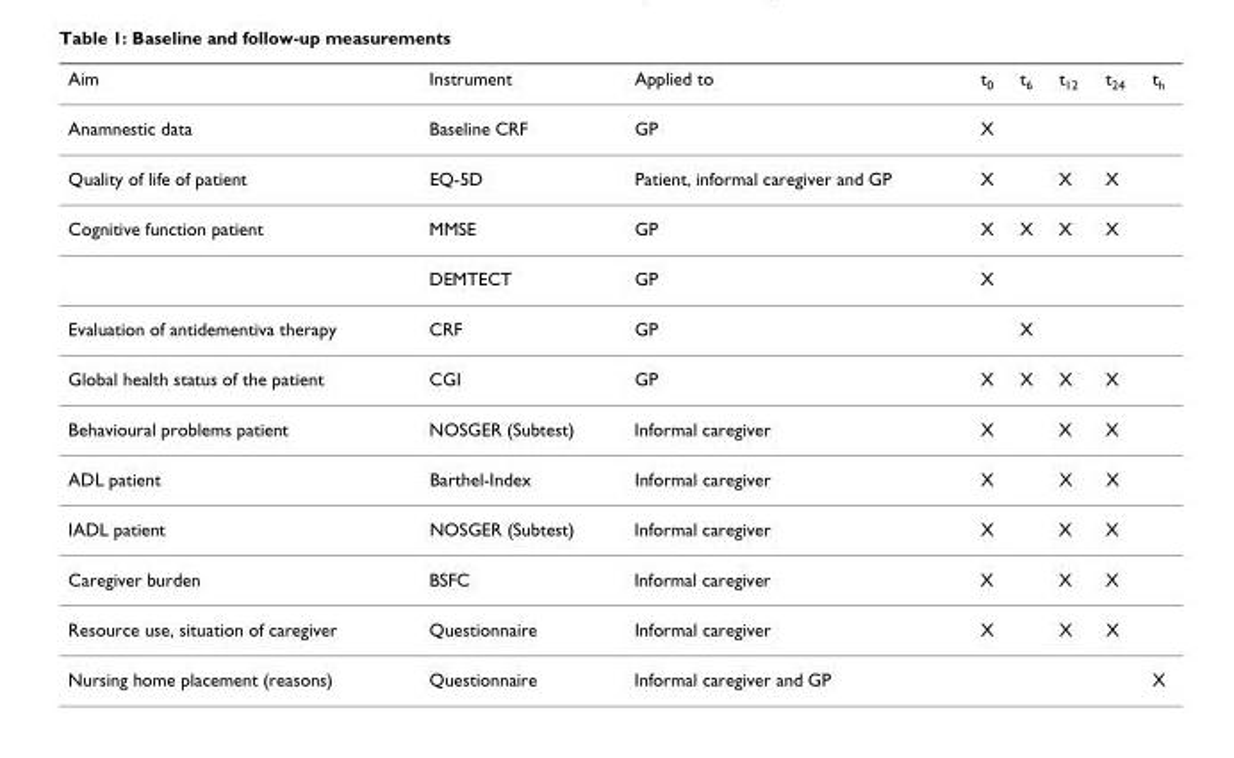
<table><thead><tr><td>Aim</td><td>Instrument</td><td>Applied to</td><td>t<sub>0</sub></td><td>t<sub>6</sub></td><td>t<sub>12</sub></td><td>t<sub>24</sub></td><td>t<sub>h</sub></td></tr></thead><tbody><tr><td>Anamnestic data</td><td>Baseline CRF</td><td>GP</td><td>X</td><td></td><td></td><td></td><td></td></tr><tr><td>Quality of life of patient</td><td>EQ-5D</td><td>Patient, informal caregiver and GP</td><td>X</td><td></td><td>X</td><td>X</td><td></td></tr><tr><td rowspan="2">Cognitive function patient</td><td>MMSE</td><td>GP</td><td>X</td><td>X</td><td>X</td><td>X</td><td></td></tr><tr><td>DEMTECT</td><td>GP</td><td>X</td><td></td><td></td><td></td><td></td></tr><tr><td>Evaluation of antidementiva therapy</td><td>CRF</td><td>GP</td><td></td><td>X</td><td></td><td></td><td></td></tr><tr><td>Global health status of the patient</td><td>CGI</td><td>GP</td><td>X</td><td>X</td><td>X</td><td>X</td><td></td></tr><tr><td>Behavioural problems patient</td><td>NOSGER (Subtest)</td><td>Informal caregiver</td><td>X</td><td></td><td>X</td><td>X</td><td></td></tr><tr><td>ADL patient</td><td>Barthel-Index</td><td>Informal caregiver</td><td>X</td><td></td><td>X</td><td>X</td><td></td></tr><tr><td>IADL patient</td><td>NOSGER (Subtest)</td><td>Informal caregiver</td><td>X</td><td></td><td>X</td><td>X</td><td></td></tr><tr><td>Caregiver burden</td><td>BSFC</td><td>Informal caregiver</td><td>X</td><td></td><td>X</td><td>X</td><td></td></tr><tr><td>Resource use, situation of caregiver</td><td>Questionnaire</td><td>Informal caregiver</td><td>X</td><td></td><td>X</td><td>X</td><td></td></tr><tr><td>Nursing home placement (reasons)</td><td>Questionnaire</td><td>Informal caregiver and GP</td><td></td><td></td><td></td><td></td><td>X</td></tr></tbody></table>